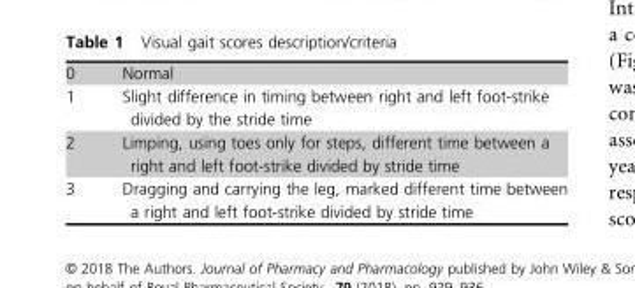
<table><tbody><tr><td>0</td><td>Normal</td></tr><tr><td>1</td><td>Slight difference in timing between right and left foot-strike divided by the stride time</td></tr><tr><td>2</td><td>Limping, using toes only for steps, different time between a right and left foot-strike divided by stride time</td></tr><tr><td>3</td><td>Dragging and carrying the leg, marked different time between a right and left foot-strike divided by stride time</td></tr></tbody></table>